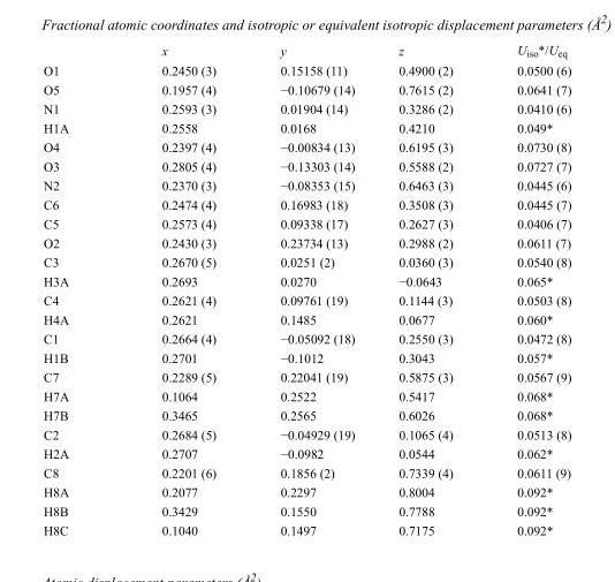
<table><thead><tr><td></td><td>x</td><td>y</td><td>z</td><td>U<sub>iso</sub>*/U<sub>eq</sub></td></tr></thead><tbody><tr><td>O1</td><td>0.2450 (3)</td><td>0.15158 (11)</td><td>0.4900 (2)</td><td>0.0500 (6)</td></tr><tr><td>O5</td><td>0.1957 (4)</td><td>−0.10679 (14)</td><td>0.7615 (2)</td><td>0.0641 (7)</td></tr><tr><td>N1</td><td>0.2593 (3)</td><td>0.01904 (14)</td><td>0.3286 (2)</td><td>0.0410 (6)</td></tr><tr><td>H1A</td><td>0.2558</td><td>0.0168</td><td>0.4210</td><td>0.049*</td></tr><tr><td>O4</td><td>0.2397 (4)</td><td>−0.00834 (13)</td><td>0.6195 (3)</td><td>0.0730 (8)</td></tr><tr><td>O3</td><td>0.2805 (4)</td><td>−0.13303 (14)</td><td>0.5588 (2)</td><td>0.0727 (7)</td></tr><tr><td>N2</td><td>0.2370 (3)</td><td>−0.08353 (15)</td><td>0.6463 (3)</td><td>0.0445 (6)</td></tr><tr><td>C6</td><td>0.2474 (4)</td><td>0.16983 (18)</td><td>0.3508 (3)</td><td>0.0445 (7)</td></tr><tr><td>C5</td><td>0.2573 (4)</td><td>0.09338 (17)</td><td>0.2627 (3)</td><td>0.0406 (7)</td></tr><tr><td>O2</td><td>0.2430 (3)</td><td>0.23734 (13)</td><td>0.2988 (2)</td><td>0.0611 (7)</td></tr><tr><td>C3</td><td>0.2670 (5)</td><td>0.0251 (2)</td><td>0.0360 (3)</td><td>0.0540 (8)</td></tr><tr><td>H3A</td><td>0.2693</td><td>0.0270</td><td>−0.0643</td><td>0.065*</td></tr><tr><td>C4</td><td>0.2621 (4)</td><td>0.09761 (19)</td><td>0.1144 (3)</td><td>0.0503 (8)</td></tr><tr><td>H4A</td><td>0.2621</td><td>0.1485</td><td>0.0677</td><td>0.060*</td></tr><tr><td>C1</td><td>0.2664 (4)</td><td>−0.05092 (18)</td><td>0.2550 (3)</td><td>0.0472 (8)</td></tr><tr><td>H1B</td><td>0.2701</td><td>−0.1012</td><td>0.3043</td><td>0.057*</td></tr><tr><td>C7</td><td>0.2289 (5)</td><td>0.22041 (19)</td><td>0.5875 (3)</td><td>0.0567 (9)</td></tr><tr><td>H7A</td><td>0.1064</td><td>0.2522</td><td>0.5417</td><td>0.068*</td></tr><tr><td>H7B</td><td>0.3465</td><td>0.2565</td><td>0.6026</td><td>0.068*</td></tr><tr><td>C2</td><td>0.2684 (5)</td><td>−0.04929 (19)</td><td>0.1065 (4)</td><td>0.0513 (8)</td></tr><tr><td>H2A</td><td>0.2707</td><td>−0.0982</td><td>0.0544</td><td>0.062*</td></tr><tr><td>C8</td><td>0.2201 (6)</td><td>0.1856 (2)</td><td>0.7339 (4)</td><td>0.0611 (9)</td></tr><tr><td>H8A</td><td>0.2077</td><td>0.2297</td><td>0.8004</td><td>0.092*</td></tr><tr><td>H8B</td><td>0.3429</td><td>0.1550</td><td>0.7788</td><td>0.092*</td></tr><tr><td>H8C</td><td>0.1040</td><td>0.1497</td><td>0.7175</td><td>0.092*</td></tr></tbody></table>